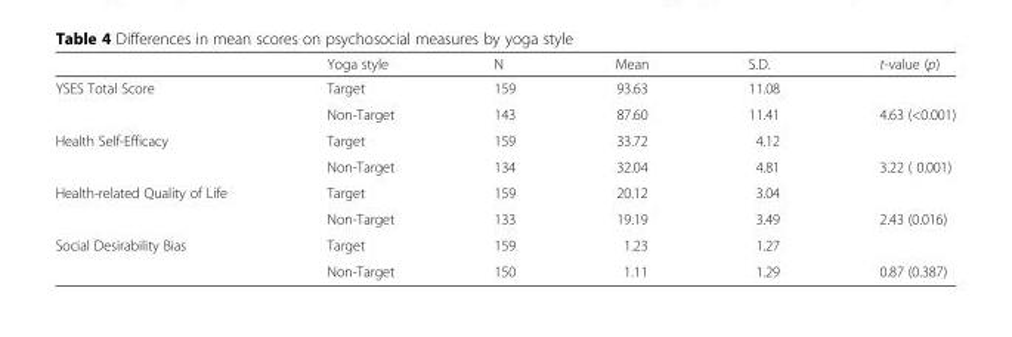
<table><thead><tr><td></td><td>Yoga style</td><td>N</td><td>Mean</td><td>S.D.</td><td>t-value (p)</td></tr></thead><tbody><tr><td rowspan="2">YSES Total Score</td><td>Target</td><td>159</td><td>93.63</td><td>11.08</td><td></td></tr><tr><td>Non-Target</td><td>143</td><td>87.60</td><td>11.41</td><td>4.63 (&lt;0.001)</td></tr><tr><td rowspan="2">Health Self-Efficacy</td><td>Target</td><td>159</td><td>33.72</td><td>4.12</td><td></td></tr><tr><td>Non-Target</td><td>134</td><td>32.04</td><td>4.81</td><td>3.22 ( 0.001)</td></tr><tr><td rowspan="2">Health-related Quality of Life</td><td>Target</td><td>159</td><td>20.12</td><td>3.04</td><td></td></tr><tr><td>Non-Target</td><td>133</td><td>19.19</td><td>3.49</td><td>2.43 (0.016)</td></tr><tr><td rowspan="2">Social Desirability Bias</td><td>Target</td><td>159</td><td>1.23</td><td>1.27</td><td></td></tr><tr><td>Non-Target</td><td>150</td><td>1.11</td><td>1.29</td><td>0.87 (0.387)</td></tr></tbody></table>